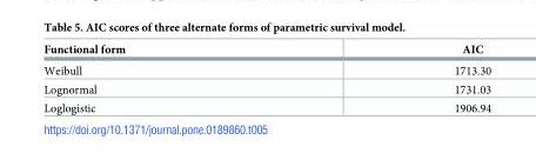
<table><thead><tr><td>Functional form</td><td>AIC</td></tr></thead><tbody><tr><td>Weibull</td><td>1713.30</td></tr><tr><td>Lognormal</td><td>1731.03</td></tr><tr><td>Loglogistic</td><td>1906.94</td></tr></tbody></table>